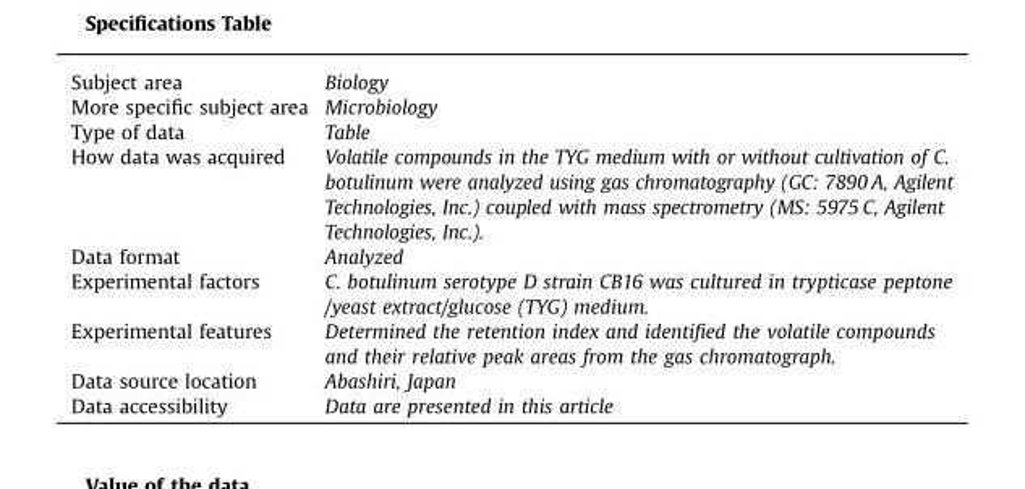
<table><thead><tr><td>Subject area</td><td>Biology</td></tr></thead><tbody><tr><td>More specific subject area</td><td>Microbiology</td></tr><tr><td>Type of data</td><td>Table</td></tr><tr><td>How data was acquired</td><td>Volatile compounds in the TYG medium with or without cultivation of C. botulinum were analyzed using gas chromatography (GC: 7890 A, Agilent Technologies, Inc.) coupled with mass spectrometry (MS: 5975 C, Agilent Technologies, Inc.).</td></tr><tr><td>Data format</td><td>Analyzed</td></tr><tr><td>Experimental factors</td><td>C. botulinum serotype D strain CB16 was cultured in trypticase peptone /yeast extract/glucose (TYG) medium.</td></tr><tr><td>Experimental features</td><td>Determined the retention index and identified the volatile compounds and their relative peak areas from the gas chromatograph.</td></tr><tr><td>Data source location</td><td>Abashiri, Japan</td></tr><tr><td>Data accessibility</td><td>Data are presented in this article</td></tr></tbody></table>